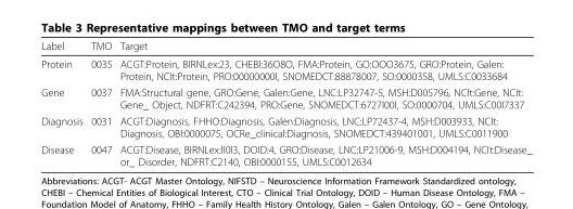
<table><thead><tr><td>Label</td><td>TMO</td><td>Target</td></tr></thead><tbody><tr><td>Protein</td><td>0035</td><td>ACGT:Protein, BIRNLex:23, CHEBI:36O8O, FMA:Protein, GO:OOO3675, GRO:Protein, Galen: Protein, NCIt:Protein, PRO:00000000l, SNOMEDCT:88878007, SO:0000358, UMLS:C0033684</td></tr><tr><td>Gene</td><td>0037</td><td>FMA:Structural gene, GRO:Gene, Galen:Gene, LNC:LP32747-5, MSH:D005796, NCIt:Gene, NCIt: Gene_ Object, NDFRT:C242394, PRO:Gene, SNOMEDCT:6727l00l, SO:0000704, UMLS:C00I7337</td></tr><tr><td>Diagnosis</td><td>0031</td><td>ACGT:Diagnosis, FHHO:Diagnosis, Galen:Diagnosis, LNC:LP72437-4, MSH:D003933, NCIt: Diagnosis, OBI:0000075, OCRe_clinical:Diagnosis, SNOMEDCT:439401001, UMLS:C0011900</td></tr><tr><td>Disease</td><td>0047</td><td>ACGT:Disease, BIRNLex:ll0l3, DOID:4, GRO:Disease, LNC:LP21006-9, MSH:D004194, NCIt:Disease_ or_ Disorder, NDFRT:C2140, OBI:0000155, UMLS:C0012634</td></tr></tbody></table>